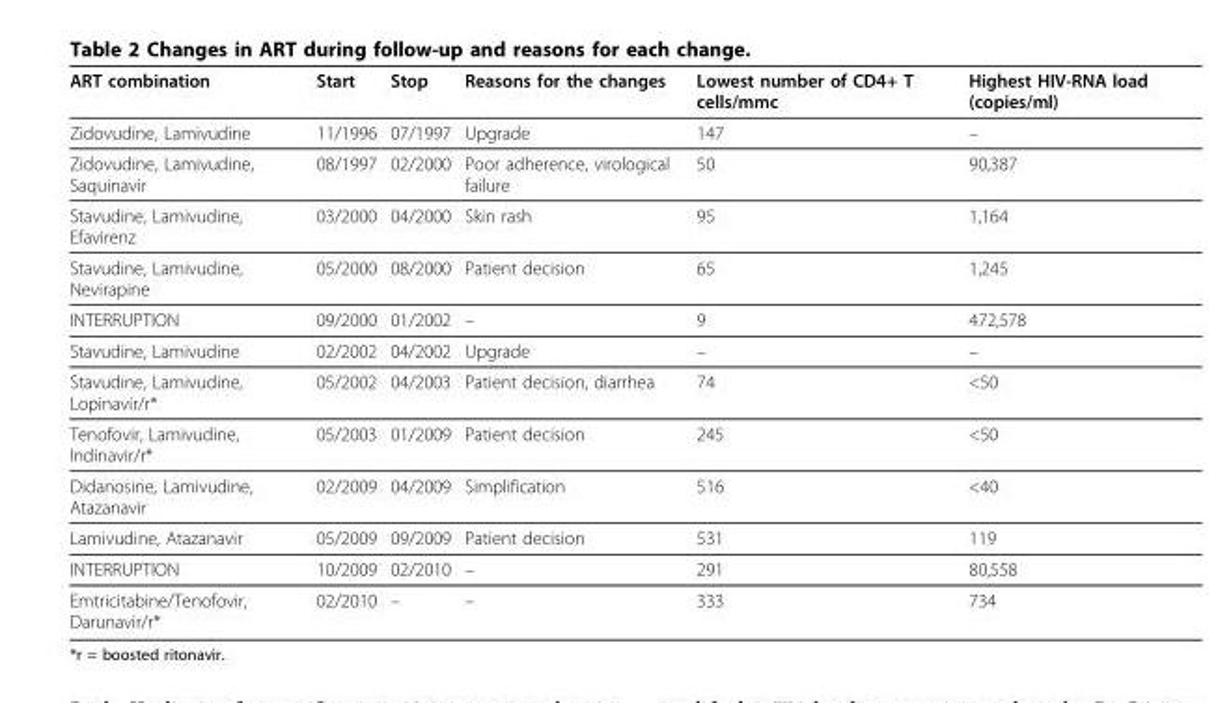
<table><thead><tr><td>ART combination</td><td>Start</td><td>Stop</td><td>Reasons for the changes</td><td>Lowest number of CD4+ T cells/mmc</td><td>Highest HIV-RNA load (copies/ml)</td></tr></thead><tbody><tr><td>Zidovudine, Lamivudine</td><td>11/1996</td><td>07/1997</td><td>Upgrade</td><td>147</td><td>–</td></tr><tr><td>Zidovudine, Lamivudine, Saquinavir</td><td>08/1997</td><td>02/2000</td><td>Poor adherence, virological failure</td><td>50</td><td>90,387</td></tr><tr><td>Stavudine, Lamivudine, Efavirenz</td><td>03/2000</td><td>04/2000</td><td>Skin rash</td><td>95</td><td>1,164</td></tr><tr><td>Stavudine, Lamivudine, Nevirapine</td><td>05/2000</td><td>08/2000</td><td>Patient decision</td><td>65</td><td>1,245</td></tr><tr><td>INTERRUPTION</td><td>09/2000</td><td>01/2002</td><td>–</td><td>9</td><td>472,578</td></tr><tr><td>Stavudine, Lamivudine</td><td>02/2002</td><td>04/2002</td><td>Upgrade</td><td>–</td><td>–</td></tr><tr><td>Stavudine, Lamivudine, Lopinavir/r*</td><td>05/2002</td><td>04/2003</td><td>Patient decision, diarrhea</td><td>74</td><td>&lt;50</td></tr><tr><td>Tenofovir, Lamivudine, Indinavir/r*</td><td>05/2003</td><td>01/2009</td><td>Patient decision</td><td>245</td><td>&lt;50</td></tr><tr><td>Didanosine, Lamivudine, Atazanavir</td><td>02/2009</td><td>04/2009</td><td>Simplification</td><td>516</td><td>&lt;40</td></tr><tr><td>Lamivudine, Atazanavir</td><td>05/2009</td><td>09/2009</td><td>Patient decision</td><td>531</td><td>119</td></tr><tr><td>INTERRUPTION</td><td>10/2009</td><td>02/2010</td><td>–</td><td>291</td><td>80,558</td></tr><tr><td>Emtricitabine/Tenofovir, Darunavir/r*</td><td>02/2010</td><td>–</td><td>–</td><td>333</td><td>734</td></tr></tbody></table>